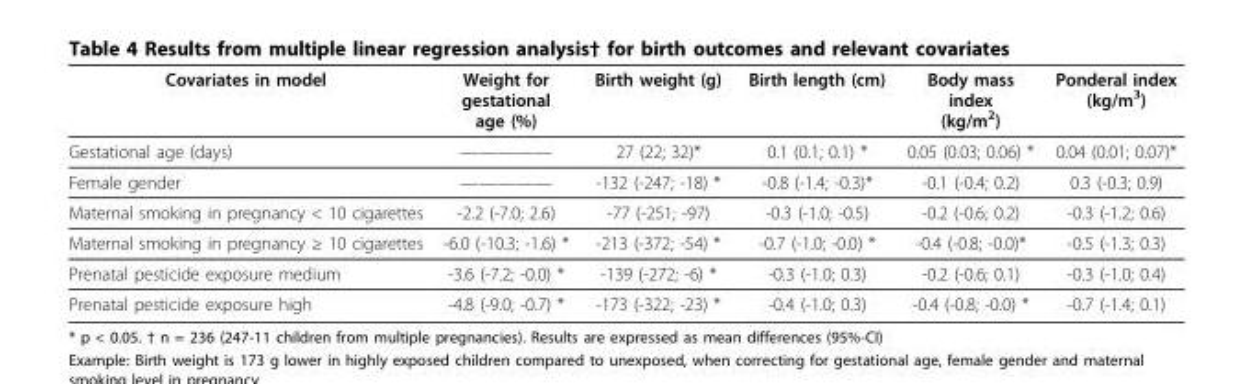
<table><thead><tr><td>Covariates in model</td><td>Weight for gestational age (%)</td><td>Birth weight (g)</td><td>Birth length (cm)</td><td>Body mass index (kg/m<sup>2</sup>)</td><td>Ponderal index (kg/m<sup>3</sup>)</td></tr></thead><tbody><tr><td>Gestational age (days)</td><td>—————</td><td>27 (22; 32)*</td><td>0.1 (0.1; 0.1) *</td><td>0.05 (0.03; 0.06) *</td><td>0.04 (0.01; 0.07)*</td></tr><tr><td>Female gender</td><td>—————</td><td>-132 (-247; -18) *</td><td>-0.8 (-1.4; -0.3)*</td><td>-0.1 (-0.4; 0.2)</td><td>0.3 (-0.3; 0.9)</td></tr><tr><td>Maternal smoking in pregnancy &lt; 10 cigarettes</td><td>-2.2 (-7.0; 2.6)</td><td>-77 (-251; -97)</td><td>-0.3 (-1.0; -0.5)</td><td>-0.2 (-0.6; 0.2)</td><td>-0.3 (-1.2; 0.6)</td></tr><tr><td>Maternal smoking in pregnancy ≥ 10 cigarettes</td><td>-6.0 (-10.3; -1.6) *</td><td>-213 (-372; -54) *</td><td>-0.7 (-1.0; -0.0) *</td><td>-0.4 (-0.8; -0.0)*</td><td>-0.5 (-1.3; 0.3)</td></tr><tr><td>Prenatal pesticide exposure medium</td><td>-3.6 (-7.2; -0.0) *</td><td>-139 (-272; -6) *</td><td>-0.3 (-1.0; 0.3)</td><td>-0.2 (-0.6; 0.1)</td><td>-0.3 (-1.0; 0.4)</td></tr><tr><td>Prenatal pesticide exposure high</td><td>-4.8 (-9.0; -0.7) *</td><td>-173 (-322; -23) *</td><td>-0.4 (-1.0; 0.3)</td><td>-0.4 (-0.8; -0.0) *</td><td>-0.7 (-1.4; 0.1)</td></tr></tbody></table>